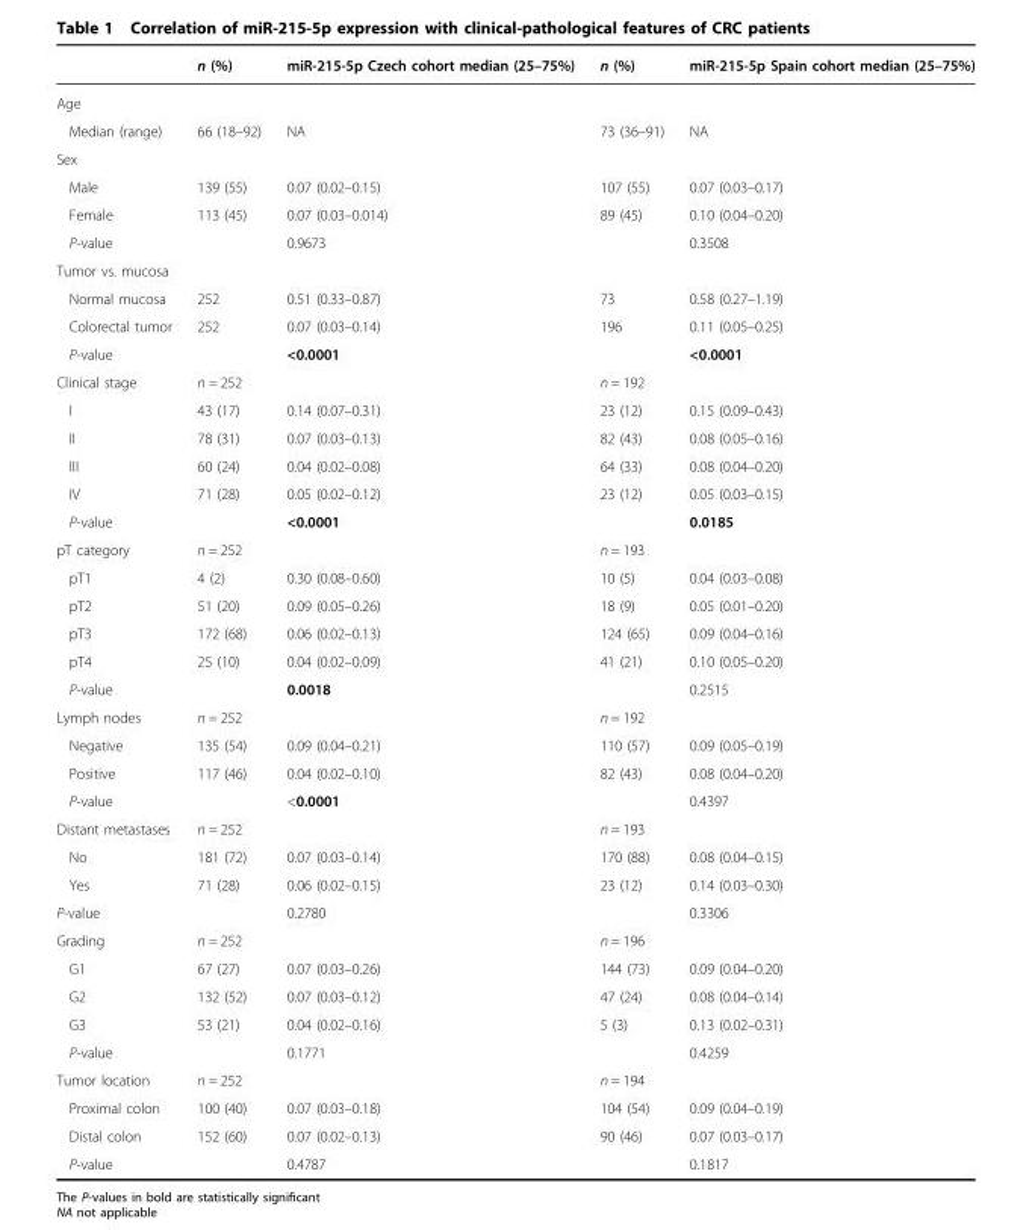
<table><thead><tr><td></td><td>n (%)</td><td>miR-215-5p Czech cohort median (25–75%)</td><td>n (%)</td><td>miR-215-5p Spain cohort median (25–75%)</td></tr></thead><tbody><tr><td colspan="5">Age</td></tr><tr><td>Median (range)</td><td>66 (18–92)</td><td>NA</td><td>73 (36–91)</td><td>NA</td></tr><tr><td colspan="5">Sex</td></tr><tr><td>Male</td><td>139 (55)</td><td>0.07 (0.02–0.15)</td><td>107 (55)</td><td>0.07 (0.03–0.17)</td></tr><tr><td>Female</td><td>113 (45)</td><td>0.07 (0.03–0.014)</td><td>89 (45)</td><td>0.10 (0.04–0.20)</td></tr><tr><td>P-value</td><td></td><td>0.9673</td><td></td><td>0.3508</td></tr><tr><td colspan="5">Tumor vs. mucosa</td></tr><tr><td>Normal mucosa</td><td>252</td><td>0.51 (0.33–0.87)</td><td>73</td><td>0.58 (0.27–1.19)</td></tr><tr><td>Colorectal tumor</td><td>252</td><td>0.07 (0.03–0.14)</td><td>196</td><td>0.11 (0.05–0.25)</td></tr><tr><td>P-value</td><td></td><td>&lt;0.0001</td><td></td><td>&lt;0.0001</td></tr><tr><td>Clinical stage</td><td>n = 252</td><td></td><td>n = 192</td><td></td></tr><tr><td>I</td><td>43 (17)</td><td>0.14 (0.07–0.31)</td><td>23 (12)</td><td>0.15 (0.09–0.43)</td></tr><tr><td>II</td><td>78 (31)</td><td>0.07 (0.03–0.13)</td><td>82 (43)</td><td>0.08 (0.05–0.16)</td></tr><tr><td>III</td><td>60 (24)</td><td>0.04 (0.02–0.08)</td><td>64 (33)</td><td>0.08 (0.04–0.20)</td></tr><tr><td>IV</td><td>71 (28)</td><td>0.05 (0.02–0.12)</td><td>23 (12)</td><td>0.05 (0.03–0.15)</td></tr><tr><td>P-value</td><td></td><td>&lt;0.0001</td><td></td><td>0.0185</td></tr><tr><td>pT category</td><td>n = 252</td><td></td><td>n = 193</td><td></td></tr><tr><td>pT1</td><td>4 (2)</td><td>0.30 (0.08–0.60)</td><td>10 (5)</td><td>0.04 (0.03–0.08)</td></tr><tr><td>pT2</td><td>51 (20)</td><td>0.09 (0.05–0.26)</td><td>18 (9)</td><td>0.05 (0.01–0.20)</td></tr><tr><td>pT3</td><td>172 (68)</td><td>0.06 (0.02–0.13)</td><td>124 (65)</td><td>0.09 (0.04–0.16)</td></tr><tr><td>pT4</td><td>25 (10)</td><td>0.04 (0.02–0.09)</td><td>41 (21)</td><td>0.10 (0.05–0.20)</td></tr><tr><td>P-value</td><td></td><td>0.0018</td><td></td><td>0.2515</td></tr><tr><td>Lymph nodes</td><td>n = 252</td><td></td><td>n = 192</td><td></td></tr><tr><td>Negative</td><td>135 (54)</td><td>0.09 (0.04–0.21)</td><td>110 (57)</td><td>0.09 (0.05–0.19)</td></tr><tr><td>Positive</td><td>117 (46)</td><td>0.04 (0.02–0.10)</td><td>82 (43)</td><td>0.08 (0.04–0.20)</td></tr><tr><td>P-value</td><td></td><td>&lt;0.0001</td><td></td><td>0.4397</td></tr><tr><td>Distant metastases</td><td>n = 252</td><td></td><td>n = 193</td><td></td></tr><tr><td>No</td><td>181 (72)</td><td>0.07 (0.03–0.14)</td><td>170 (88)</td><td>0.08 (0.04–0.15)</td></tr><tr><td>Yes</td><td>71 (28)</td><td>0.06 (0.02–0.15)</td><td>23 (12)</td><td>0.14 (0.03–0.30)</td></tr><tr><td>P-value</td><td></td><td>0.2780</td><td></td><td>0.3306</td></tr><tr><td>Grading</td><td>n = 252</td><td></td><td>n = 196</td><td></td></tr><tr><td>G1</td><td>67 (27)</td><td>0.07 (0.03–0.26)</td><td>144 (73)</td><td>0.09 (0.04–0.20)</td></tr><tr><td>G2</td><td>132 (52)</td><td>0.07 (0.03–0.12)</td><td>47 (24)</td><td>0.08 (0.04–0.14)</td></tr><tr><td>G3</td><td>53 (21)</td><td>0.04 (0.02–0.16)</td><td>5 (3)</td><td>0.13 (0.02–0.31)</td></tr><tr><td>P-value</td><td></td><td>0.1771</td><td></td><td>0.4259</td></tr><tr><td>Tumor location</td><td>n = 252</td><td></td><td>n = 194</td><td></td></tr><tr><td>Proximal colon</td><td>100 (40)</td><td>0.07 (0.03–0.18)</td><td>104 (54)</td><td>0.09 (0.04–0.19)</td></tr><tr><td>Distal colon</td><td>152 (60)</td><td>0.07 (0.02–0.13)</td><td>90 (46)</td><td>0.07 (0.03–0.17)</td></tr><tr><td>P-value</td><td></td><td>0.4787</td><td></td><td>0.1817</td></tr></tbody></table>